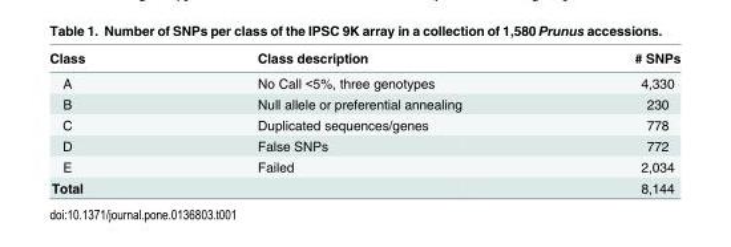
<table><thead><tr><td>Class</td><td>Class description</td><td># SNPs</td></tr></thead><tbody><tr><td>A</td><td>No Call &lt;5%, three genotypes</td><td>4,330</td></tr><tr><td>B</td><td>Null allele or preferential annealing</td><td>230</td></tr><tr><td>C</td><td>Duplicated sequences/genes</td><td>778</td></tr><tr><td>D</td><td>False SNPs</td><td>772</td></tr><tr><td>E</td><td>Failed</td><td>2,034</td></tr><tr><td>Total</td><td></td><td>8,144</td></tr></tbody></table>